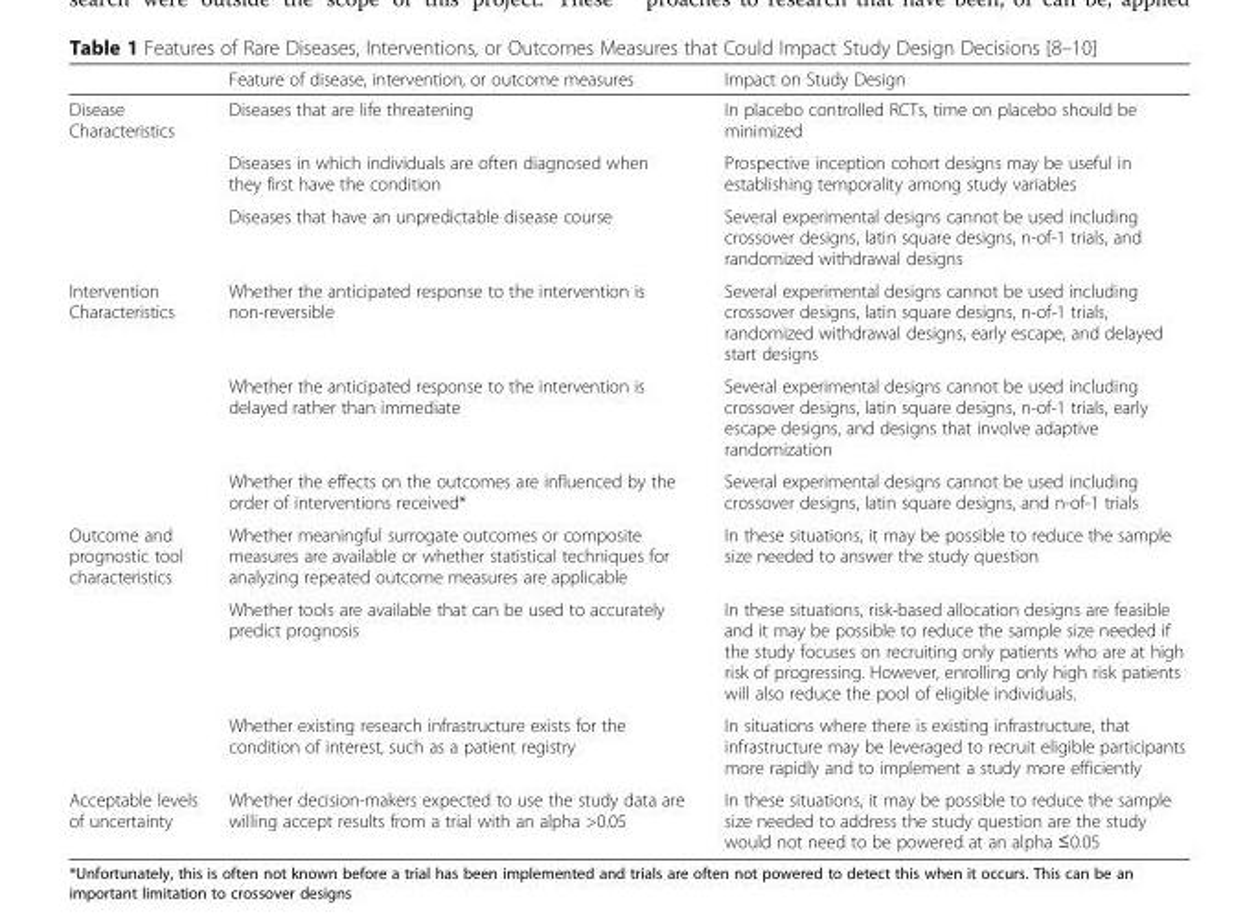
<table><thead><tr><td></td><td>Feature of disease, intervention, or outcome measures</td><td>Impact on Study Design</td></tr></thead><tbody><tr><td rowspan="3">Disease Characteristics</td><td>Diseases that are life threatening</td><td>In placebo controlled RCTs, time on placebo should be minimized</td></tr><tr><td>Diseases in which individuals are often diagnosed when they first have the condition</td><td>Prospective inception cohort designs may be useful in establishing temporality among study variables</td></tr><tr><td>Diseases that have an unpredictable disease course</td><td>Several experimental designs cannot be used including crossover designs, latin square designs, n-of-1 trials, and randomized withdrawal designs</td></tr><tr><td rowspan="3">Intervention Characteristics</td><td>Whether the anticipated response to the intervention is non-reversible</td><td>Several experimental designs cannot be used including crossover designs, latin square designs, n-of-1 trials, randomized withdrawal designs, early escape, and delayed start designs</td></tr><tr><td>Whether the anticipated response to the intervention is delayed rather than immediate</td><td>Several experimental designs cannot be used including crossover designs, latin square designs, n-of-1 trials, early escape designs, and designs that involve adaptive randomization</td></tr><tr><td>Whether the effects on the outcomes are influenced by the order of interventions received*</td><td>Several experimental designs cannot be used including crossover designs, latin square designs, and n-of-1 trials</td></tr><tr><td rowspan="3">Outcome and prognostic tool characteristics</td><td>Whether meaningful surrogate outcomes or composite measures are available or whether statistical techniques for analyzing repeated outcome measures are applicable</td><td>In these situations, it may be possible to reduce the sample size needed to answer the study question</td></tr><tr><td>Whether tools are available that can be used to accurately predict prognosis</td><td>In these situations, risk-based allocation designs are feasible and it may be possible to reduce the sample size needed if the study focuses on recruiting only patients who are at high risk of progressing. However, enrolling only high risk patients will also reduce the pool of eligible individuals.</td></tr><tr><td>Whether existing research infrastructure exists for the condition of interest, such as a patient registry</td><td>In situations where there is existing infrastructure, that infrastructure may be leveraged to recruit eligible participants more rapidly and to implement a study more efficiently</td></tr><tr><td>Acceptable levels of uncertainty</td><td>Whether decision-makers expected to use the study data are willing accept results from a trial with an alpha &gt;0.05</td><td>In these situations, it may be possible to reduce the sample size needed to address the study question are the study would not need to be powered at an alpha ≤0.05</td></tr></tbody></table>